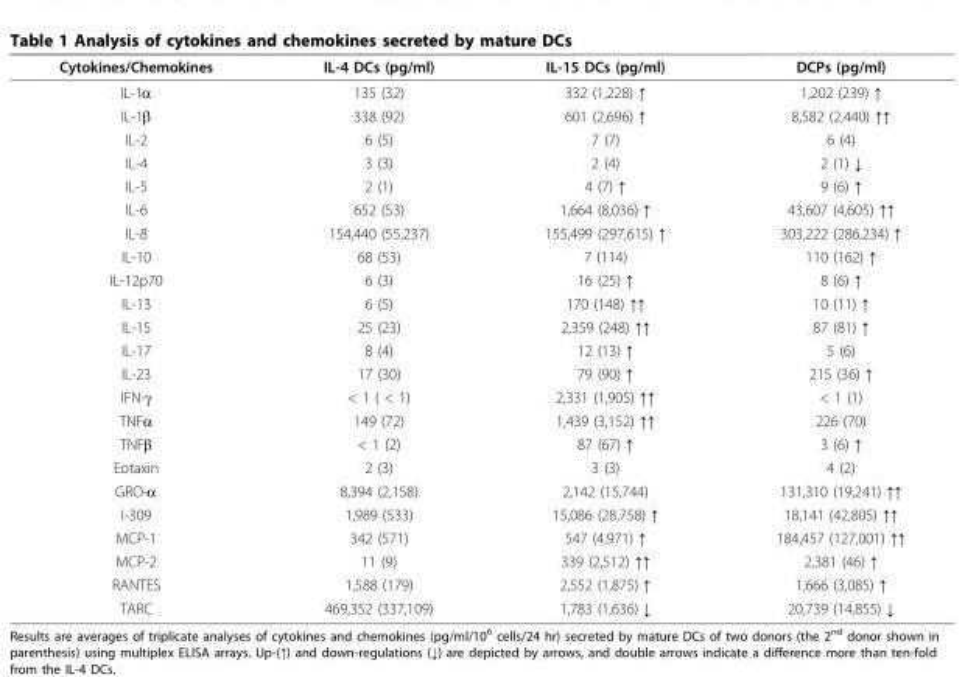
<table><thead><tr><td>Cytokines/Chemokines</td><td>IL-4 DCs (pg/ml)</td><td>IL-15 DCs (pg/ml)</td><td>DCPs (pg/ml)</td></tr></thead><tbody><tr><td>IL-1α</td><td>135 (32)</td><td>332 (1,228) ↑</td><td>1,202 (239) ↑</td></tr><tr><td>IL-1β</td><td>338 (92)</td><td>601 (2,696) ↑</td><td>8,582 (2,440) ↑↑</td></tr><tr><td>IL-2</td><td>6 (5)</td><td>7 (7)</td><td>6 (4)</td></tr><tr><td>IL-4</td><td>3 (3)</td><td>2 (4)</td><td>2 (1) ↓</td></tr><tr><td>IL-5</td><td>2 (1)</td><td>4 (7) ↑</td><td>9 (6) ↑</td></tr><tr><td>IL-6</td><td>652 (53)</td><td>1,664 (8,036) ↑</td><td>43,607 (4,605) ↑↑</td></tr><tr><td>IL-8</td><td>154,440 (55,237)</td><td>155,499 (297,615) ↑</td><td>303,222 (286,234) ↑</td></tr><tr><td>IL-10</td><td>68 (53)</td><td>7 (114)</td><td>110 (162) ↑</td></tr><tr><td>IL-12p70</td><td>6 (3)</td><td>16 (25) ↑</td><td>8 (6) ↑</td></tr><tr><td>IL-13</td><td>6 (5)</td><td>170 (148) ↑↑</td><td>10 (11) ↑</td></tr><tr><td>IL-15</td><td>25 (23)</td><td>2,359 (248) ↑↑</td><td>87 (81) ↑</td></tr><tr><td>IL-17</td><td>8 (4)</td><td>12 (13) ↑</td><td>5 (6)</td></tr><tr><td>IL-23</td><td>17 (30)</td><td>79 (90) ↑</td><td>215 (36) ↑</td></tr><tr><td>IFN-γ</td><td>&lt; 1 ( &lt; 1)</td><td>2,331 (1,905) ↑↑</td><td>&lt; 1 (1)</td></tr><tr><td>TNFα</td><td>149 (72)</td><td>1,439 (3,152) ↑↑</td><td>226 (70)</td></tr><tr><td>TNFβ</td><td>&lt; 1 (2)</td><td>87 (67) ↑</td><td>3 (6) ↑</td></tr><tr><td>Eotaxin</td><td>2 (3)</td><td>3 (3)</td><td>4 (2)</td></tr><tr><td>GRO-α</td><td>8,394 (2,158)</td><td>2,142 (15,744)</td><td>131,310 (19,241) ↑↑</td></tr><tr><td>I-309</td><td>1,989 (533)</td><td>15,086 (28,758) ↑</td><td>18,141 (42,805) ↑↑</td></tr><tr><td>MCP-1</td><td>342 (571)</td><td>547 (4,971) ↑</td><td>184,457 (127,001) ↑↑</td></tr><tr><td>MCP-2</td><td>11 (9)</td><td>339 (2,512) ↑↑</td><td>2,381 (46) ↑</td></tr><tr><td>RANTES</td><td>1,588 (179)</td><td>2,552 (1,875) ↑</td><td>1,666 (3,085) ↑</td></tr><tr><td>TARC</td><td>469,352 (337,109)</td><td>1,783 (1,636) ↓</td><td>20,739 (14,855) ↓</td></tr></tbody></table>